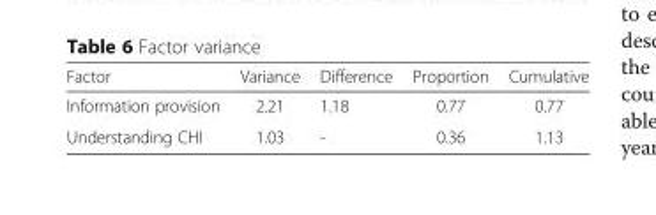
<table><thead><tr><td>Factor</td><td>Variance</td><td>Difference</td><td>Proportion</td><td>Cumulative</td></tr></thead><tbody><tr><td>Information provision</td><td>2.21</td><td>1.18</td><td>0.77</td><td>0.77</td></tr><tr><td>Understanding CHI</td><td>1.03</td><td>-</td><td>0.36</td><td>1.13</td></tr></tbody></table>